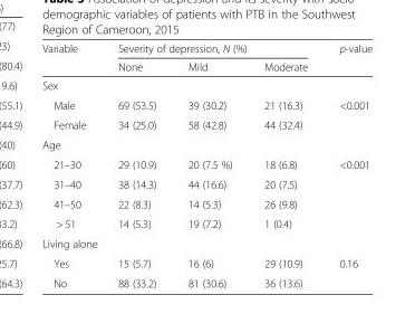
<table><thead><tr><td rowspan="2">Variable</td><td colspan="3">Severity of depression, N (%)</td><td rowspan="2">p-value</td></tr><tr><td>None</td><td>Mild</td><td>Moderate</td></tr></thead><tbody><tr><td colspan="5">Sex</td></tr><tr><td>Male</td><td>69 (53.5)</td><td>39 (30.2)</td><td>21 (16.3)</td><td rowspan="2">&lt;0.001</td></tr><tr><td>Female</td><td>34 (25.0)</td><td>58 (42.8)</td><td>44 (32.4)</td></tr><tr><td colspan="5">Age</td></tr><tr><td>21–30</td><td>29 (10.9)</td><td>20 (7.5 %)</td><td>18 (6.8)</td><td rowspan="4">&lt;0.001</td></tr><tr><td>31–40</td><td>38 (14.3)</td><td>44 (16.6)</td><td>20 (7.5)</td></tr><tr><td>41–50</td><td>22 (8.3)</td><td>14 (5.3)</td><td>26 (9.8)</td></tr><tr><td>&gt; 51</td><td>14 (5.3)</td><td>19 (7.2)</td><td>1 (0.4)</td></tr><tr><td colspan="5">Living alone</td></tr><tr><td>Yes</td><td>15 (5.7)</td><td>16 (6)</td><td>29 (10.9)</td><td rowspan="2">0.16</td></tr><tr><td>No</td><td>88 (33.2)</td><td>81 (30.6)</td><td>36 (13.6)</td></tr></tbody></table>